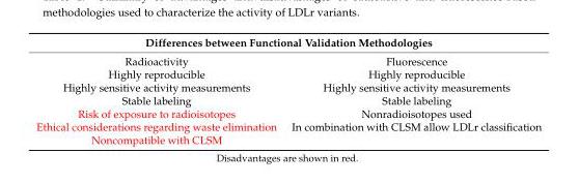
<table><thead><tr><td colspan="2">Differences between Functional Validation Methodologies</td></tr><tr><td>Radioactivity</td><td>Fluorescence</td></tr></thead><tbody><tr><td>Highly reproducible</td><td>Highly reproducible</td></tr><tr><td>Highly sensitive activity measurements</td><td>Highly sensitive activity measurements</td></tr><tr><td>Stable labeling</td><td>Stable labeling</td></tr><tr><td>Risk of exposure to radioisotopes</td><td>Nonradioisotopes used</td></tr><tr><td>Ethical considerations regarding waste elimination</td><td>In combination with CLSM allow LDLr classification</td></tr><tr><td>Noncompatible with CLSM</td><td></td></tr></tbody></table>